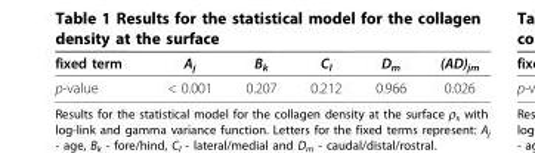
<table><thead><tr><td>fixed term</td><td>A<sub>j</sub></td><td>B<sub>k</sub></td><td>C<sub>l</sub></td><td>D<sub>m</sub></td><td>(AD)<sub>jm</sub></td></tr></thead><tbody><tr><td>p-value</td><td>&lt; 0.001</td><td>0.207</td><td>0.212</td><td>0.966</td><td>0.026</td></tr></tbody></table>